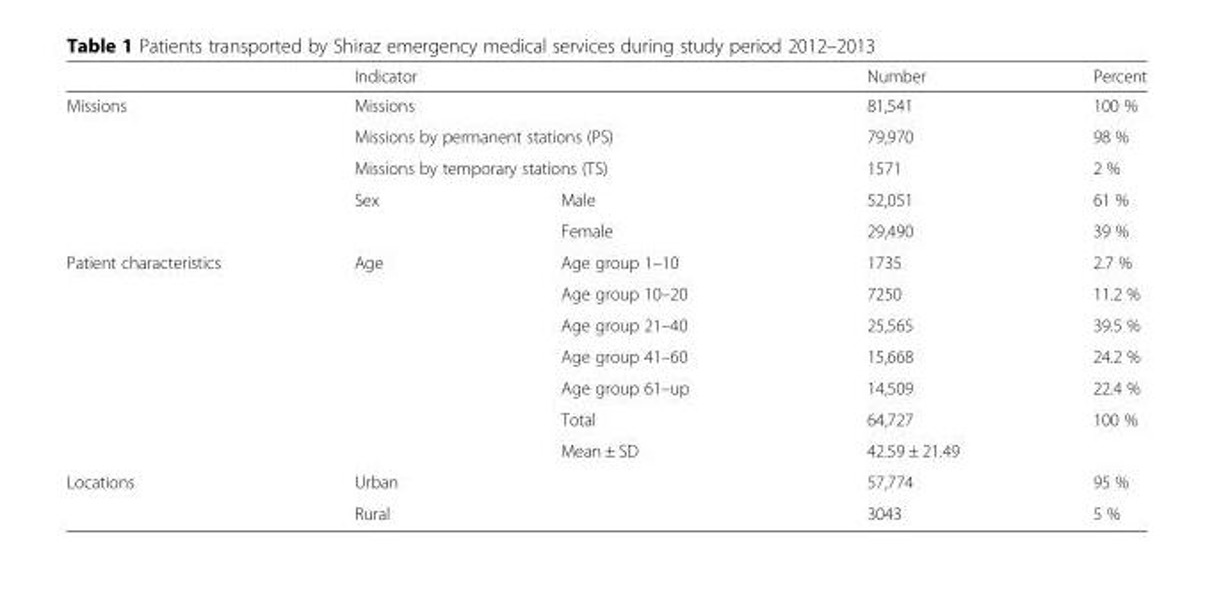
<table><thead><tr><td></td><td colspan="2">Indicator</td><td>Number</td><td>Percent</td></tr></thead><tbody><tr><td rowspan="5">Missions</td><td colspan="2">Missions</td><td>81,541</td><td>100 %</td></tr><tr><td colspan="2">Missions by permanent stations (PS)</td><td>79,970</td><td>98 %</td></tr><tr><td colspan="2">Missions by temporary stations (TS)</td><td>1571</td><td>2 %</td></tr><tr><td rowspan="2">Sex</td><td>Male</td><td>52,051</td><td>61 %</td></tr><tr><td>Female</td><td>29,490</td><td>39 %</td></tr><tr><td rowspan="7">Patient characteristics</td><td rowspan="7">Age</td><td>Age group 1–10</td><td>1735</td><td>2.7 %</td></tr><tr><td>Age group 10–20</td><td>7250</td><td>11.2 %</td></tr><tr><td>Age group 21–40</td><td>25,565</td><td>39.5 %</td></tr><tr><td>Age group 41–60</td><td>15,668</td><td>24.2 %</td></tr><tr><td>Age group 61–up</td><td>14,509</td><td>22.4 %</td></tr><tr><td>Total</td><td>64,727</td><td>100 %</td></tr><tr><td>Mean ± SD</td><td>42.59 ± 21.49</td><td></td></tr><tr><td rowspan="2">Locations</td><td colspan="2">Urban</td><td>57,774</td><td>95 %</td></tr><tr><td colspan="2">Rural</td><td>3043</td><td>5 %</td></tr></tbody></table>